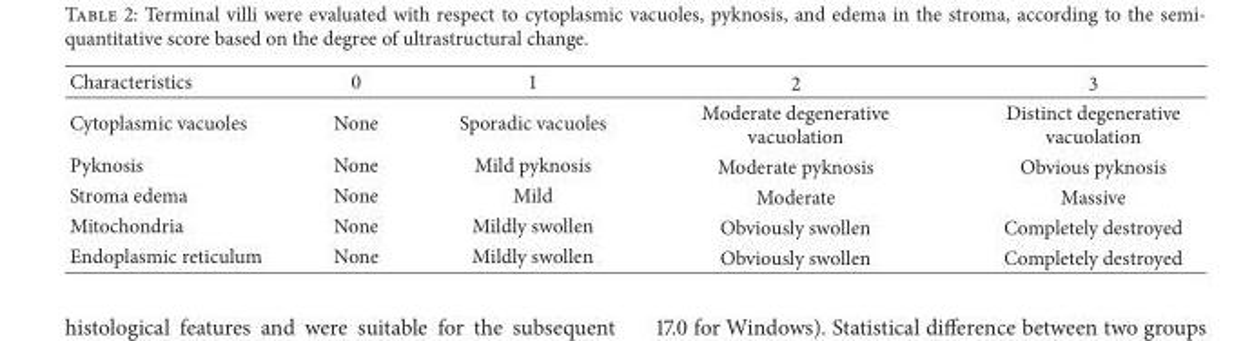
<table><thead><tr><td>Characteristics</td><td>0</td><td>1</td><td>2</td><td>3</td></tr></thead><tbody><tr><td>Cytoplasmic vacuoles</td><td>None</td><td>Sporadic vacuoles</td><td>Moderate degenerative vacuolation</td><td>Distinct degenerative vacuolation</td></tr><tr><td>Pyknosis</td><td>None</td><td>Mild pyknosis</td><td>Moderate pyknosis</td><td>Obvious pyknosis</td></tr><tr><td>Stroma edema</td><td>None</td><td>Mild</td><td>Moderate</td><td>Massive</td></tr><tr><td>Mitochondria</td><td>None</td><td>Mildly swollen</td><td>Obviously swollen</td><td>Completely destroyed</td></tr><tr><td>Endoplasmic reticulum</td><td>None</td><td>Mildly swollen</td><td>Obviously swollen</td><td>Completely destroyed</td></tr></tbody></table>